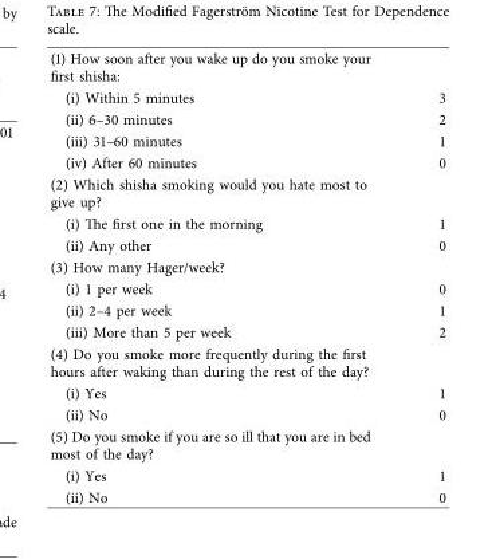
<table><tbody><tr><td colspan="2">(1) How soon after you wake up do you smoke your frst shisha:</td></tr><tr><td>(i) Within 5 minutes</td><td>3</td></tr><tr><td>(ii) 6–30 minutes</td><td>2</td></tr><tr><td>(iii) 31–60 minutes</td><td>1</td></tr><tr><td>(iv) After 60 minutes</td><td>0</td></tr><tr><td colspan="2">(2) Which shisha smoking would you hate most to give up?</td></tr><tr><td>(i) Te frst one in the morning</td><td>1</td></tr><tr><td>(ii) Any other</td><td>0</td></tr><tr><td colspan="2">(3) How many Hager/week?</td></tr><tr><td>(i) 1 per week</td><td>0</td></tr><tr><td>(ii) 2–4 per week</td><td>1</td></tr><tr><td>(iii) More than 5 per week</td><td>2</td></tr><tr><td colspan="2">(4) Do you smoke more frequently during the frst hours after waking than during the rest of the day?</td></tr><tr><td>(i) Yes</td><td>1</td></tr><tr><td>(ii) No</td><td>0</td></tr><tr><td colspan="2">(5) Do you smoke if you are so ill that you are in bed most of the day?</td></tr><tr><td>(i) Yes</td><td>1</td></tr><tr><td>(ii) No</td><td>0</td></tr></tbody></table>